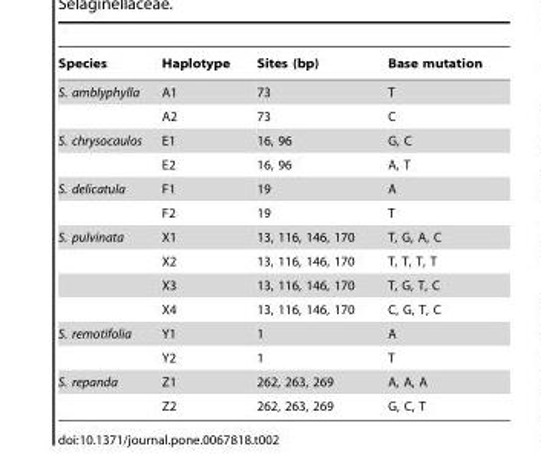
<table><thead><tr><td>Species</td><td>Haplotype</td><td>Sites (bp)</td><td>Base mutation</td></tr></thead><tbody><tr><td rowspan="2">S. amblyphylla</td><td>A1</td><td>73</td><td>T</td></tr><tr><td>A2</td><td>73</td><td>C</td></tr><tr><td rowspan="2">S. chrysocaulos</td><td>E1</td><td>16, 96</td><td>G, C</td></tr><tr><td>E2</td><td>16, 96</td><td>A, T</td></tr><tr><td rowspan="2">S. delicatula</td><td>F1</td><td>19</td><td>A</td></tr><tr><td>F2</td><td>19</td><td>T</td></tr><tr><td rowspan="4">S. pulvinata</td><td>X1</td><td>13, 116, 146, 170</td><td>T, G, A, C</td></tr><tr><td>X2</td><td>13, 116, 146, 170</td><td>T, T, T, T</td></tr><tr><td>X3</td><td>13, 116, 146, 170</td><td>T, G, T, C</td></tr><tr><td>X4</td><td>13, 116, 146, 170</td><td>C, G, T, C</td></tr><tr><td rowspan="2">S. remotifolia</td><td>Y1</td><td>1</td><td>A</td></tr><tr><td>Y2</td><td>1</td><td>T</td></tr><tr><td rowspan="2">S. repanda</td><td>Z1</td><td>262, 263, 269</td><td>A, A, A</td></tr><tr><td>Z2</td><td>262, 263, 269</td><td>G, C, T</td></tr></tbody></table>